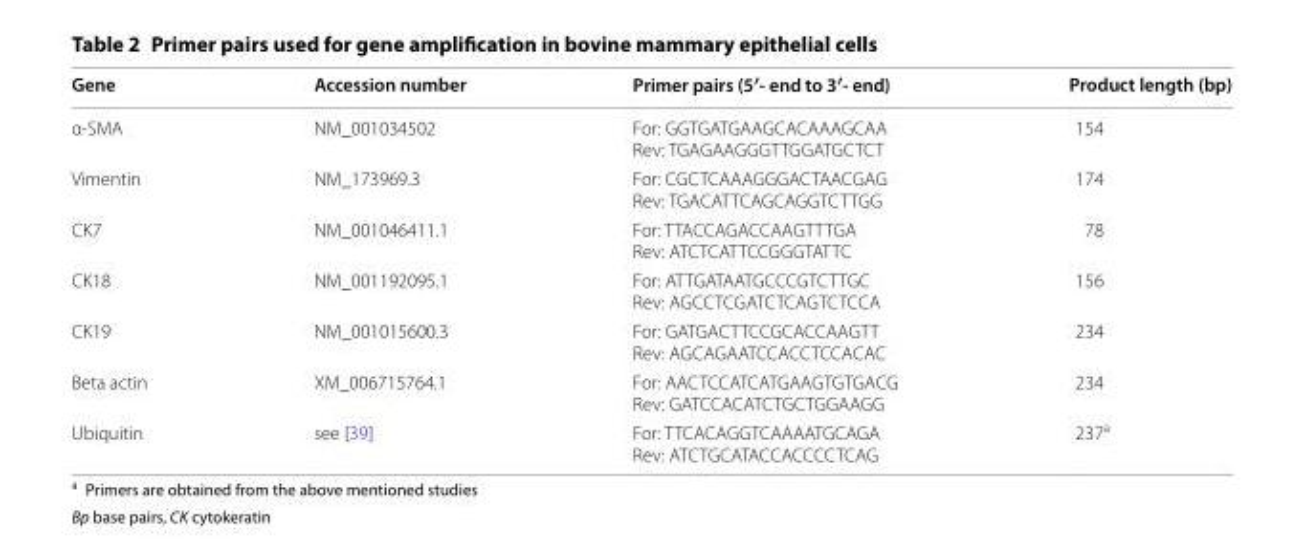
<table><thead><tr><td>Gene</td><td>Accession number</td><td>Primer pairs (5′- end to 3′- end)</td><td>Product length (bp)</td></tr></thead><tbody><tr><td>α-SMA</td><td>NM_001034502</td><td>For: GGTGATGAAGCACAAAGCAA Rev: TGAGAAGGGTTGGATGCTCT</td><td>154</td></tr><tr><td>Vimentin</td><td>NM_173969.3</td><td>For: CGCTCAAAGGGACTAACGAG Rev: TGACATTCAGCAGGTCTTGG</td><td>174</td></tr><tr><td>CK7</td><td>NM_001046411.1</td><td>For: TTACCAGACCAAGTTTGA Rev: ATCTCATTCCGGGTATTC</td><td>78</td></tr><tr><td>CK18</td><td>NM_001192095.1</td><td>For: ATTGATAATGCCCGTCTTGC Rev: AGCCTCGATCTCAGTCTCCA</td><td>156</td></tr><tr><td>CK19</td><td>NM_001015600.3</td><td>For: GATGACTTCCGCACCAAGTT Rev: AGCAGAATCCACCTCCACAC</td><td>234</td></tr><tr><td>Beta actin</td><td>XM_006715764.1</td><td>For: AACTCCATCATGAAGTGTGACG Rev: GATCCACATCTGCTGGAAGG</td><td>234</td></tr><tr><td>Ubiquitin</td><td>see [39]</td><td>For: TTCACAGGTCAAAATGCAGA Rev: ATCTGCATACCACCCCTCAG</td><td>237<sup>a</sup></td></tr></tbody></table>